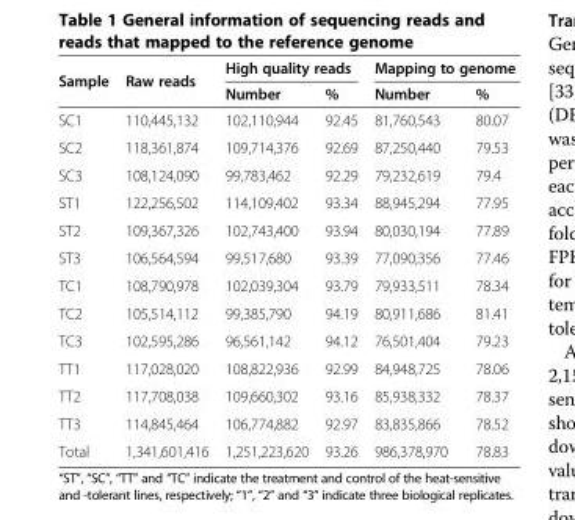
<table><thead><tr><td rowspan="2">Sample</td><td rowspan="2">Raw reads</td><td colspan="2">High quality reads</td><td colspan="2">Mapping to genome</td></tr><tr><td>Number</td><td>%</td><td>Number</td><td>%</td></tr></thead><tbody><tr><td>SC1</td><td>110,445,132</td><td>102,110,944</td><td>92.45</td><td>81,760,543</td><td>80.07</td></tr><tr><td>SC2</td><td>118,361,874</td><td>109,714,376</td><td>92.69</td><td>87,250,440</td><td>79.53</td></tr><tr><td>SC3</td><td>108,124,090</td><td>99,783,462</td><td>92.29</td><td>79,232,619</td><td>79.4</td></tr><tr><td>ST1</td><td>122,256,502</td><td>114,109,402</td><td>93.34</td><td>88,945,294</td><td>77.95</td></tr><tr><td>ST2</td><td>109,367,326</td><td>102,743,400</td><td>93.94</td><td>80,030,194</td><td>77.89</td></tr><tr><td>ST3</td><td>106,564,594</td><td>99,517,680</td><td>93.39</td><td>77,090,356</td><td>77.46</td></tr><tr><td>TC1</td><td>108,790,978</td><td>102,039,304</td><td>93.79</td><td>79,933,511</td><td>78.34</td></tr><tr><td>TC2</td><td>105,514,112</td><td>99,385,790</td><td>94.19</td><td>80,911,686</td><td>81.41</td></tr><tr><td>TC3</td><td>102,595,286</td><td>96,561,142</td><td>94.12</td><td>76,501,404</td><td>79.23</td></tr><tr><td>TT1</td><td>117,028,020</td><td>108,822,936</td><td>92.99</td><td>84,948,725</td><td>78.06</td></tr><tr><td>TT2</td><td>117,708,038</td><td>109,660,302</td><td>93.16</td><td>85,938,332</td><td>78.37</td></tr><tr><td>TT3</td><td>114,845,464</td><td>106,774,882</td><td>92.97</td><td>83,835,866</td><td>78.52</td></tr><tr><td>Total</td><td>1,341,601,416</td><td>1,251,223,620</td><td>93.26</td><td>986,378,970</td><td>78.83</td></tr></tbody></table>